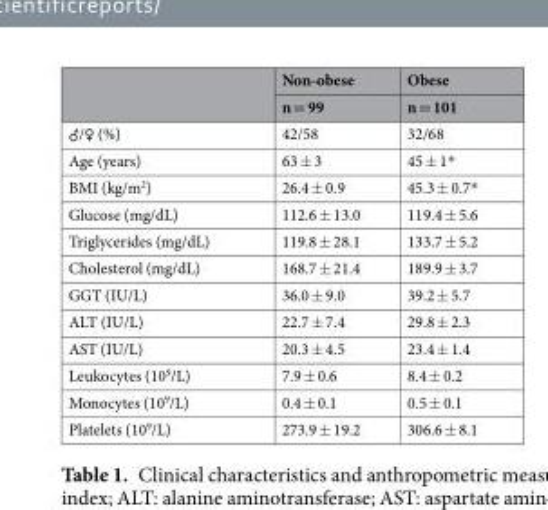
<table><thead><tr><td rowspan="2"></td><td rowspan="2">Non-obese n = 99</td><td rowspan="2">Obese n = 101</td></tr><tr></tr></thead><tbody><tr><td>♂/♀ (%)</td><td>42/58</td><td>32/68</td></tr><tr><td>Age (years)</td><td>63 ± 3</td><td>45 ± 1*</td></tr><tr><td>BMI (kg/m<sup>2</sup>)</td><td>26.4 ± 0.9</td><td>45.3 ± 0.7*</td></tr><tr><td>Glucose (mg/dL)</td><td>112.6 ± 13.0</td><td>119.4 ± 5.6</td></tr><tr><td>Triglycerides (mg/dL)</td><td>119.8 ± 28.1</td><td>133.7 ± 5.2</td></tr><tr><td>Cholesterol (mg/dL)</td><td>168.7 ± 21.4</td><td>189.9 ± 3.7</td></tr><tr><td>GGT (IU/L)</td><td>36.0 ± 9.0</td><td>39.2 ± 5.7</td></tr><tr><td>ALT (IU/L)</td><td>22.7 ± 7.4</td><td>29.8 ± 2.3</td></tr><tr><td>AST (IU/L)</td><td>20.3 ± 4.5</td><td>23.4 ± 1.4</td></tr><tr><td>Leukocytes (10<sup>9</sup>/L)</td><td>7.9 ± 0.6</td><td>8.4 ± 0.2</td></tr><tr><td>Monocytes (10<sup>9</sup>/L)</td><td>0.4 ± 0.1</td><td>0.5 ± 0.1</td></tr><tr><td>Platelets (10<sup>9</sup>/L)</td><td>273.9 ± 19.2</td><td>306.6 ± 8.1</td></tr></tbody></table>